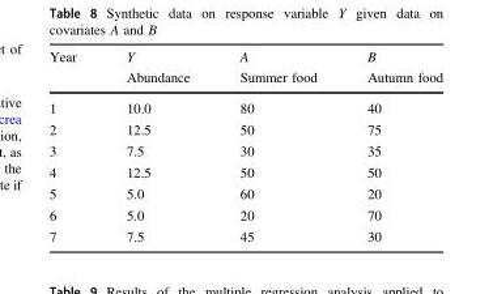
<table><thead><tr><td rowspan="2">Year</td><td rowspan="2">Y Abundance</td><td rowspan="2">A Summer food</td><td rowspan="2">B Autumn food</td></tr><tr></tr></thead><tbody><tr><td>1</td><td>10.0</td><td>80</td><td>40</td></tr><tr><td>2</td><td>12.5</td><td>50</td><td>75</td></tr><tr><td>3</td><td>7.5</td><td>30</td><td>35</td></tr><tr><td>4</td><td>12.5</td><td>50</td><td>50</td></tr><tr><td>5</td><td>5.0</td><td>60</td><td>20</td></tr><tr><td>6</td><td>5.0</td><td>20</td><td>70</td></tr><tr><td>7</td><td>7.5</td><td>45</td><td>30</td></tr></tbody></table>